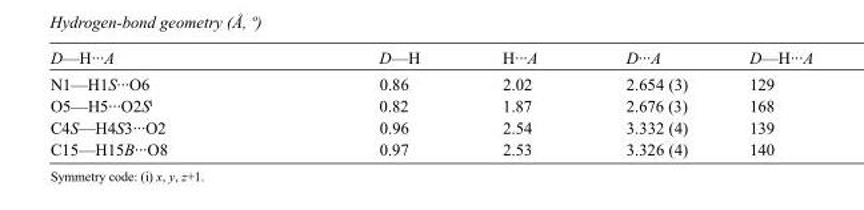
<table><tbody><tr><td>D—H···A</td><td>D—H</td><td>H···A</td><td>D···A</td><td>D—H···A</td></tr><tr><td>N1—H1S···O6</td><td>0.86</td><td>2.02</td><td>2.654 (3)</td><td>129</td></tr><tr><td>O5—H5···O2S<sup>i</sup></td><td>0.82</td><td>1.87</td><td>2.676 (3)</td><td>168</td></tr><tr><td>C4S—H4S3···O2</td><td>0.96</td><td>2.54</td><td>3.332 (4)</td><td>139</td></tr><tr><td>C15—H15B···O8</td><td>0.97</td><td>2.53</td><td>3.326 (4)</td><td>140</td></tr></tbody></table>